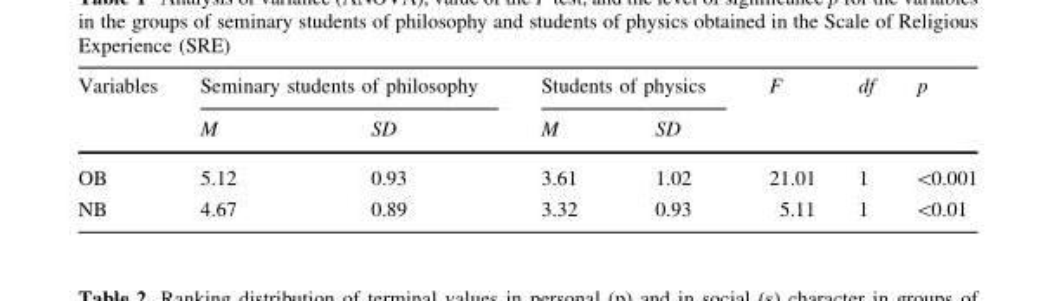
<table><thead><tr><td rowspan="2">Variables</td><td colspan="2">Seminary students of philosophy</td><td colspan="2">Students of physics</td><td rowspan="2">F</td><td rowspan="2">df</td><td rowspan="2">p</td></tr><tr><td>M</td><td>SD</td><td>M</td><td>SD</td></tr></thead><tbody><tr><td>OB</td><td>5.12</td><td>0.93</td><td>3.61</td><td>1.02</td><td>21.01</td><td>1</td><td>&lt;0.001</td></tr><tr><td>NB</td><td>4.67</td><td>0.89</td><td>3.32</td><td>0.93</td><td>5.11</td><td>1</td><td>&lt;0.01</td></tr></tbody></table>